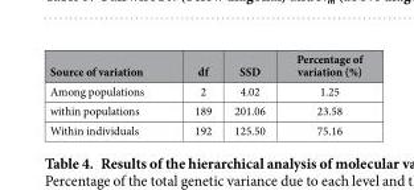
<table><thead><tr><td>Source of variation</td><td>df</td><td>SSD</td><td>Percentage of variation (%)</td></tr></thead><tbody><tr><td>Among populations</td><td>2</td><td>4.02</td><td>1.25</td></tr><tr><td>within populations</td><td>189</td><td>201.06</td><td>23.58</td></tr><tr><td>Within individuals</td><td>192</td><td>125.50</td><td>75.16</td></tr></tbody></table>